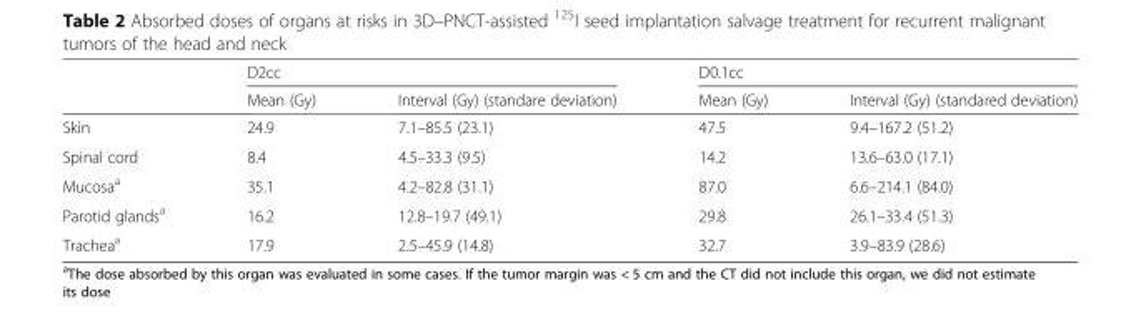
<table><thead><tr><td rowspan="2"></td><td colspan="2">D2cc</td><td colspan="2">D0.1cc</td></tr><tr><td>Mean (Gy)</td><td>Interval (Gy) (standare deviation)</td><td>Mean (Gy)</td><td>Interval (Gy) (standared deviation)</td></tr></thead><tbody><tr><td>Skin</td><td>24.9</td><td>7.1–85.5 (23.1)</td><td>47.5</td><td>9.4–167.2 (51.2)</td></tr><tr><td>Spinal cord</td><td>8.4</td><td>4.5–33.3 (9.5)</td><td>14.2</td><td>13.6–63.0 (17.1)</td></tr><tr><td>Mucosa<sup>a</sup></td><td>35.1</td><td>4.2–82.8 (31.1)</td><td>87.0</td><td>6.6–214.1 (84.0)</td></tr><tr><td>Parotid glands<sup>a</sup></td><td>16.2</td><td>12.8–19.7 (49.1)</td><td>29.8</td><td>26.1–33.4 (51.3)</td></tr><tr><td>Trachea<sup>a</sup></td><td>17.9</td><td>2.5–45.9 (14.8)</td><td>32.7</td><td>3.9–83.9 (28.6)</td></tr></tbody></table>